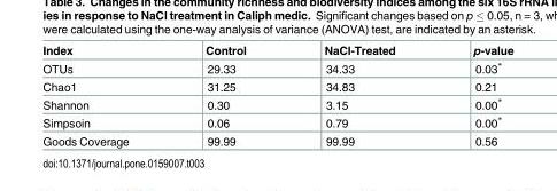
<table><thead><tr><td>Index</td><td>Control</td><td>NaCl-Treated</td><td>p-value</td></tr></thead><tbody><tr><td>OTUs</td><td>29.33</td><td>34.33</td><td>0.03*</td></tr><tr><td>Chao1</td><td>31.25</td><td>34.83</td><td>0.21</td></tr><tr><td>Shannon</td><td>0.30</td><td>3.15</td><td>0.00*</td></tr><tr><td>Simpsoin</td><td>0.06</td><td>0.79</td><td>0.00*</td></tr><tr><td>Goods Coverage</td><td>99.99</td><td>99.99</td><td>0.56</td></tr></tbody></table>